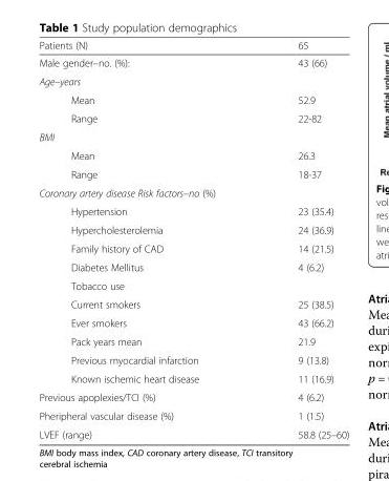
<table><thead><tr><td>Patients (N)</td><td>65</td></tr></thead><tbody><tr><td>Male gender–no. (%):</td><td>43 (66)</td></tr><tr><td colspan="2">Age–years</td></tr><tr><td>Mean</td><td>52.9</td></tr><tr><td>Range</td><td>22-82</td></tr><tr><td colspan="2">BMI</td></tr><tr><td>Mean</td><td>26.3</td></tr><tr><td>Range</td><td>18-37</td></tr><tr><td colspan="2">Coronary artery disease Risk factors–no (%)</td></tr><tr><td>Hypertension</td><td>23 (35.4)</td></tr><tr><td>Hypercholesterolemia</td><td>24 (36.9)</td></tr><tr><td>Family history of CAD</td><td>14 (21.5)</td></tr><tr><td>Diabetes Mellitus</td><td>4 (6.2)</td></tr><tr><td colspan="2">Tobacco use</td></tr><tr><td>Current smokers</td><td>25 (38.5)</td></tr><tr><td>Ever smokers</td><td>43 (66.2)</td></tr><tr><td>Pack years mean</td><td>21.9</td></tr><tr><td>Previous myocardial infarction</td><td>9 (13.8)</td></tr><tr><td>Known ischemic heart disease</td><td>11 (16.9)</td></tr><tr><td>Previous apoplexies/TCI (%)</td><td>4 (6.2)</td></tr><tr><td>Pheripheral vascular disease (%)</td><td>1 (1.5)</td></tr><tr><td>LVEF (range)</td><td>58.8 (25–60)</td></tr></tbody></table>